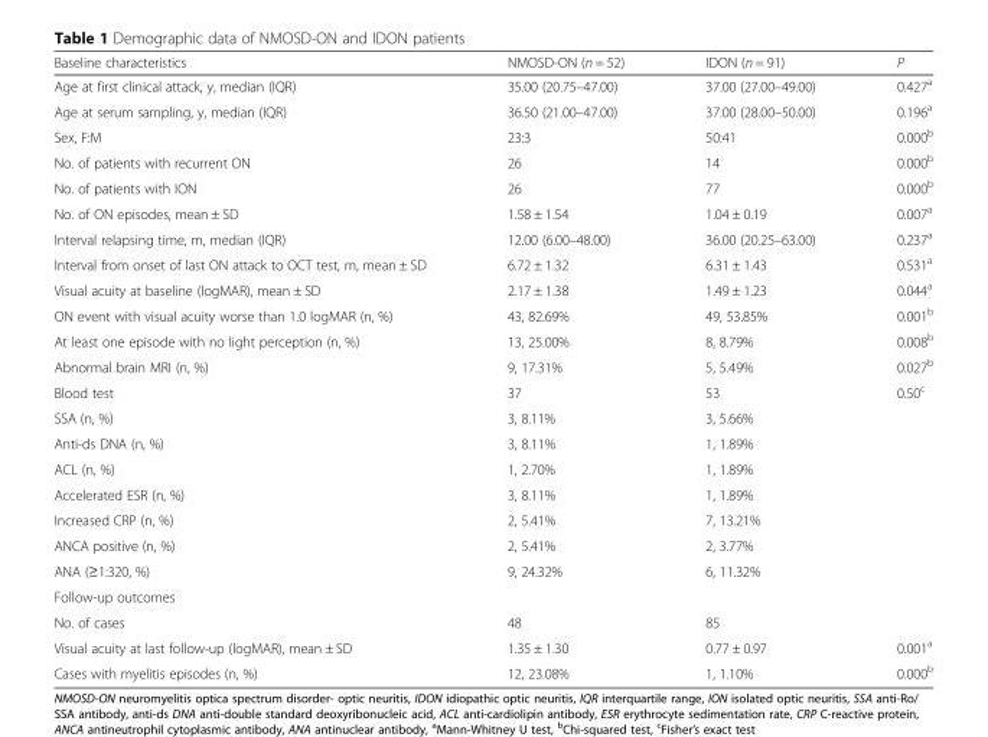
<table><thead><tr><td>Baseline characteristics</td><td>NMOSD-ON (n = 52)</td><td>IDON (n = 91)</td><td>P</td></tr></thead><tbody><tr><td>Age at first clinical attack, y, median (IQR)</td><td>35.00 (20.75–47.00)</td><td>37.00 (27.00–49.00)</td><td>0.427<sup>a</sup></td></tr><tr><td>Age at serum sampling, y, median (IQR)</td><td>36.50 (21.00–47.00)</td><td>37.00 (28.00–50.00)</td><td>0.196<sup>a</sup></td></tr><tr><td>Sex, F:M</td><td>23:3</td><td>50:41</td><td>0.000<sup>b</sup></td></tr><tr><td>No. of patients with recurrent ON</td><td>26</td><td>14</td><td>0.000<sup>b</sup></td></tr><tr><td>No. of patients with ION</td><td>26</td><td>77</td><td>0.000<sup>b</sup></td></tr><tr><td>No. of ON episodes, mean ± SD</td><td>1.58 ± 1.54</td><td>1.04 ± 0.19</td><td>0.007<sup>a</sup></td></tr><tr><td>Interval relapsing time, m, median (IQR)</td><td>12.00 (6.00–48.00)</td><td>36.00 (20.25–63.00)</td><td>0.237<sup>a</sup></td></tr><tr><td>Interval from onset of last ON attack to OCT test, m, mean ± SD</td><td>6.72 ± 1.32</td><td>6.31 ± 1.43</td><td>0.531<sup>a</sup></td></tr><tr><td>Visual acuity at baseline (logMAR), mean ± SD</td><td>2.17 ± 1.38</td><td>1.49 ± 1.23</td><td>0.044<sup>a</sup></td></tr><tr><td>ON event with visual acuity worse than 1.0 logMAR (n, %)</td><td>43, 82.69%</td><td>49, 53.85%</td><td>0.001<sup>b</sup></td></tr><tr><td>At least one episode with no light perception (n, %)</td><td>13, 25.00%</td><td>8, 8.79%</td><td>0.008<sup>b</sup></td></tr><tr><td>Abnormal brain MRI (n, %)</td><td>9, 17.31%</td><td>5, 5.49%</td><td>0.027<sup>b</sup></td></tr><tr><td>Blood test</td><td>37</td><td>53</td><td>0.50<sup>c</sup></td></tr><tr><td>SSA (n, %)</td><td>3, 8.11%</td><td>3, 5.66%</td><td></td></tr><tr><td>Anti-ds DNA (n, %)</td><td>3, 8.11%</td><td>1, 1.89%</td><td></td></tr><tr><td>ACL (n, %)</td><td>1, 2.70%</td><td>1, 1.89%</td><td></td></tr><tr><td>Accelerated ESR (n, %)</td><td>3, 8.11%</td><td>1, 1.89%</td><td></td></tr><tr><td>Increased CRP (n, %)</td><td>2, 5.41%</td><td>7, 13.21%</td><td></td></tr><tr><td>ANCA positive (n, %)</td><td>2, 5.41%</td><td>2, 3.77%</td><td></td></tr><tr><td>ANA (≥1:320, %)</td><td>9, 24.32%</td><td>6, 11.32%</td><td></td></tr><tr><td colspan="4">Follow-up outcomes</td></tr><tr><td>No. of cases</td><td>48</td><td>85</td><td></td></tr><tr><td>Visual acuity at last follow-up (logMAR), mean ± SD</td><td>1.35 ± 1.30</td><td>0.77 ± 0.97</td><td>0.001<sup>a</sup></td></tr><tr><td>Cases with myelitis episodes (n, %)</td><td>12, 23.08%</td><td>1, 1.10%</td><td>0.000<sup>b</sup></td></tr></tbody></table>